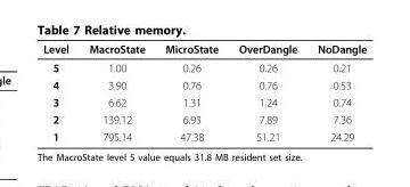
<table><thead><tr><td>Level</td><td>MacroState</td><td>MicroState</td><td>OverDangle</td><td>NoDangle</td></tr></thead><tbody><tr><td>5</td><td>1.00</td><td>0.26</td><td>0.26</td><td>0.21</td></tr><tr><td>4</td><td>3.90</td><td>0.76</td><td>0.76</td><td>0.53</td></tr><tr><td>3</td><td>6.62</td><td>1.31</td><td>1.24</td><td>0.74</td></tr><tr><td>2</td><td>139.12</td><td>6.93</td><td>7.89</td><td>7.36</td></tr><tr><td>1</td><td>795.14</td><td>47.38</td><td>51.21</td><td>24.29</td></tr></tbody></table>